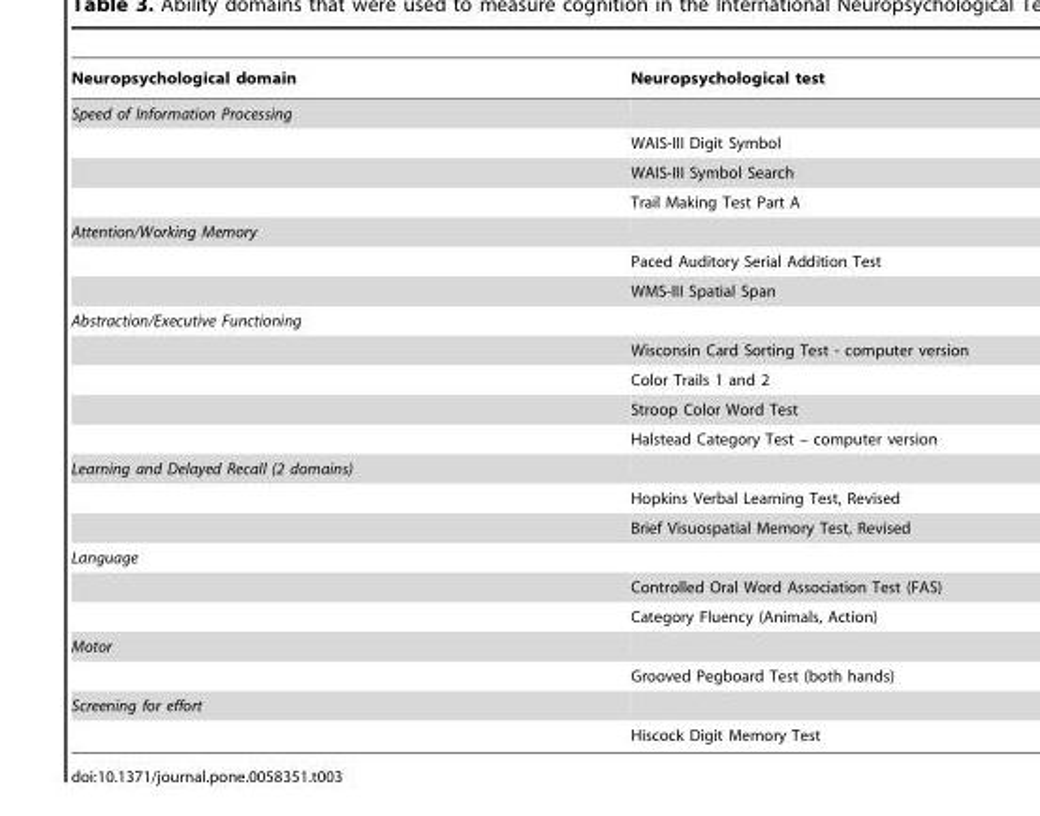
<table><thead><tr><td>Neuropsychological domain</td><td>Neuropsychological test</td></tr></thead><tbody><tr><td colspan="2">Speed of Information Processing</td></tr><tr><td></td><td>WAIS-III Digit Symbol</td></tr><tr><td></td><td>WAIS-III Symbol Search</td></tr><tr><td></td><td>Trail Making Test Part A</td></tr><tr><td colspan="2">Attention/Working Memory</td></tr><tr><td></td><td>Paced Auditory Serial Addition Test</td></tr><tr><td></td><td>WMS-III Spatial Span</td></tr><tr><td colspan="2">Abstraction/Executive Functioning</td></tr><tr><td></td><td>Wisconsin Card Sorting Test - computer version</td></tr><tr><td></td><td>Color Trails 1 and 2</td></tr><tr><td></td><td>Stroop Color Word Test</td></tr><tr><td></td><td>Halstead Category Test – computer version</td></tr><tr><td colspan="2">Learning and Delayed Recall (2 domains)</td></tr><tr><td></td><td>Hopkins Verbal Learning Test, Revised</td></tr><tr><td></td><td>Brief Visuospatial Memory Test, Revised</td></tr><tr><td colspan="2">Language</td></tr><tr><td></td><td>Controlled Oral Word Association Test (FAS)</td></tr><tr><td></td><td>Category Fluency (Animals, Action)</td></tr><tr><td colspan="2">Motor</td></tr><tr><td></td><td>Grooved Pegboard Test (both hands)</td></tr><tr><td colspan="2">Screening for effort</td></tr><tr><td></td><td>Hiscock Digit Memory Test</td></tr></tbody></table>